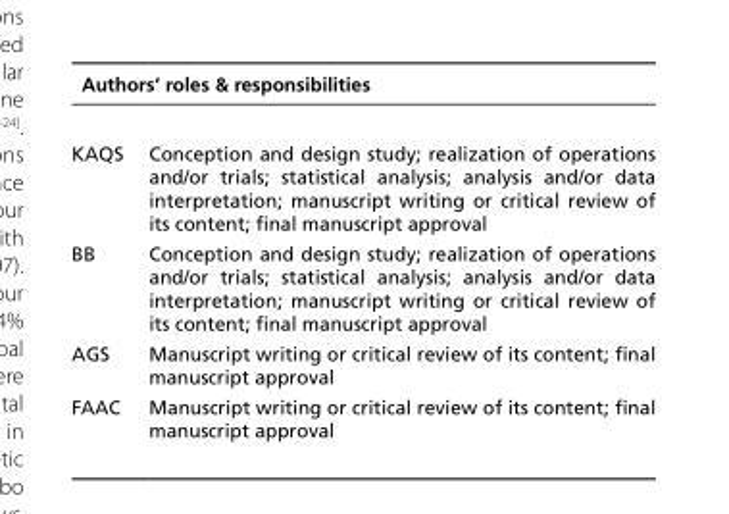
<table><thead><tr><td colspan="2">Authors’ roles &amp; responsibilities</td></tr><tr><td>KAQS</td><td>Conception and design study; realization of operations and/or trials; statistical analysis; analysis and/or data interpretation; manuscript writing or critical review of its content; final manuscript approval</td></tr></thead><tbody><tr><td>BB</td><td>Conception and design study; realization of operations and/or trials; statistical analysis; analysis and/or data interpretation; manuscript writing or critical review of its content; final manuscript approval</td></tr><tr><td>AGS</td><td>Manuscript writing or critical review of its content; final manuscript approval</td></tr><tr><td>FAAC</td><td>Manuscript writing or critical review of its content; final manuscript approval</td></tr></tbody></table>